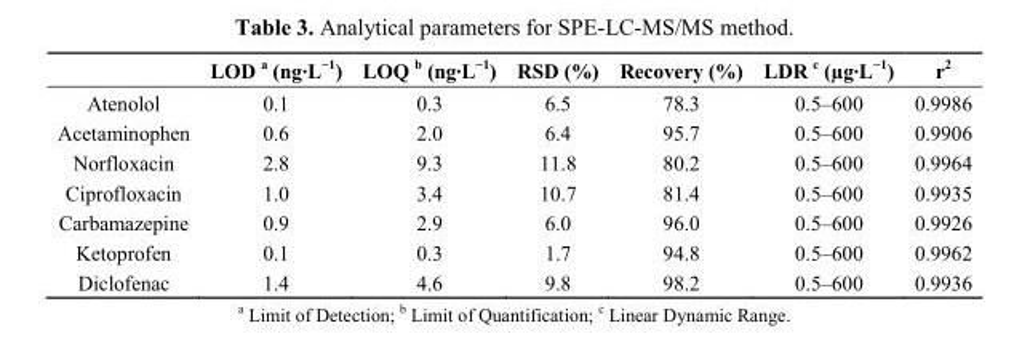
<table><thead><tr><td></td><td>LOD <sup>a</sup> (ng·L<sup>−1</sup>)</td><td>LOQ <sup>b</sup> (ng·L<sup>−1</sup>)</td><td>RSD (%)</td><td>Recovery (%)</td><td>LDR <sup>c</sup> (µg·L<sup>−1</sup>)</td><td>r<sup>2</sup></td></tr></thead><tbody><tr><td>Atenolol</td><td>0.1</td><td>0.3</td><td>6.5</td><td>78.3</td><td>0.5–600</td><td>0.9986</td></tr><tr><td>Acetaminophen</td><td>0.6</td><td>2.0</td><td>6.4</td><td>95.7</td><td>0.5–600</td><td>0.9906</td></tr><tr><td>Norfloxacin</td><td>2.8</td><td>9.3</td><td>11.8</td><td>80.2</td><td>0.5–600</td><td>0.9964</td></tr><tr><td>Ciprofloxacin</td><td>1.0</td><td>3.4</td><td>10.7</td><td>81.4</td><td>0.5–600</td><td>0.9935</td></tr><tr><td>Carbamazepine</td><td>0.9</td><td>2.9</td><td>6.0</td><td>96.0</td><td>0.5–600</td><td>0.9926</td></tr><tr><td>Ketoprofen</td><td>0.1</td><td>0.3</td><td>1.7</td><td>94.8</td><td>0.5–600</td><td>0.9962</td></tr><tr><td>Diclofenac</td><td>1.4</td><td>4.6</td><td>9.8</td><td>98.2</td><td>0.5–600</td><td>0.9936</td></tr></tbody></table>